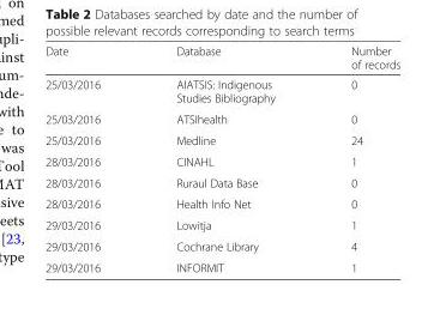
<table><thead><tr><td>Date</td><td>Database</td><td>Number of records</td></tr></thead><tbody><tr><td>25/03/2016</td><td>AIATSIS: Indigenous Studies Bibliography</td><td>0</td></tr><tr><td>25/03/2016</td><td>ATSIhealth</td><td>0</td></tr><tr><td>25/03/2016</td><td>Medline</td><td>24</td></tr><tr><td>28/03/2016</td><td>CINAHL</td><td>1</td></tr><tr><td>28/03/2016</td><td>Ruraul Data Base</td><td>0</td></tr><tr><td>28/03/2016</td><td>Health Info Net</td><td>0</td></tr><tr><td>29/03/2016</td><td>Lowitja</td><td>1</td></tr><tr><td>29/03/2016</td><td>Cochrane Library</td><td>4</td></tr><tr><td>29/03/2016</td><td>INFORMIT</td><td>1</td></tr></tbody></table>